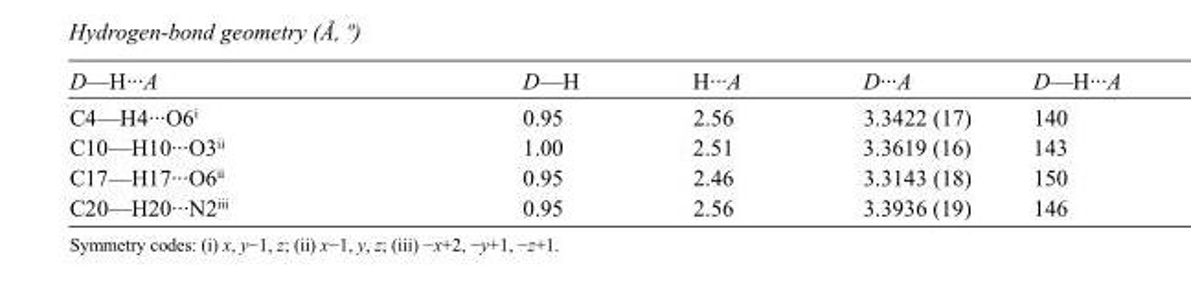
<table><tbody><tr><td>D—H···A</td><td>D—H</td><td>H···A</td><td>D···A</td><td>D—H···A</td></tr><tr><td>C4—H4···O6<sup>i</sup></td><td>0.95</td><td>2.56</td><td>3.3422 (17)</td><td>140</td></tr><tr><td>C10—H10···O3<sup>ii</sup></td><td>1.00</td><td>2.51</td><td>3.3619 (16)</td><td>143</td></tr><tr><td>C17—H17···O6<sup>ii</sup></td><td>0.95</td><td>2.46</td><td>3.3143 (18)</td><td>150</td></tr><tr><td>C20—H20···N2<sup>iii</sup></td><td>0.95</td><td>2.56</td><td>3.3936 (19)</td><td>146</td></tr></tbody></table>